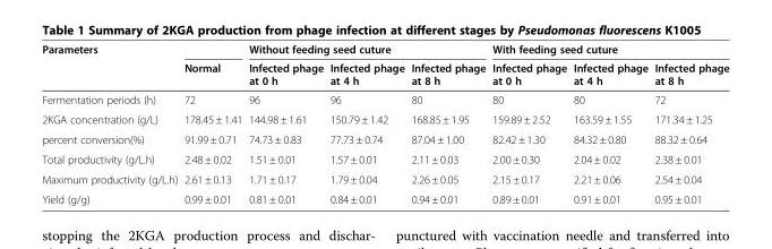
<table><thead><tr><td rowspan="2">Parameters</td><td rowspan="2">Normal</td><td colspan="3">Without feeding seed cuture</td><td colspan="3">With feeding seed cuture</td></tr><tr><td>Infected phage at 0 h</td><td>Infected phage at 4 h</td><td>Infected phage at 8 h</td><td>Infected phage at 0 h</td><td>Infected phage at 4 h</td><td>Infected phage at 8 h</td></tr></thead><tbody><tr><td>Fermentation periods (h)</td><td>72</td><td>96</td><td>96</td><td>80</td><td>80</td><td>80</td><td>72</td></tr><tr><td>2KGA concentration (g/L)</td><td>178.45 ± 1.41</td><td>144.98 ± 1.61</td><td>150.79 ± 1.42</td><td>168.85 ± 1.95</td><td>159.89 ± 2.52</td><td>163.59 ± 1.55</td><td>171.34 ± 1.25</td></tr><tr><td>percent conversion(%)</td><td>91.99 ± 0.71</td><td>74.73 ± 0.83</td><td>77.73 ± 0.74</td><td>87.04 ± 1.00</td><td>82.42 ± 1.30</td><td>84.32 ± 0.80</td><td>88.32 ± 0.64</td></tr><tr><td>Total productivity (g/L.h)</td><td>2.48 ± 0.02</td><td>1.51 ± 0.01</td><td>1.57 ± 0.01</td><td>2.11 ± 0.03</td><td>2.00 ± 0.30</td><td>2.04 ± 0.02</td><td>2.38 ± 0.01</td></tr><tr><td>Maximum productivity (g/L.h)</td><td>2.61 ± 0.13</td><td>1.71 ± 0.17</td><td>1.79 ± 0.04</td><td>2.26 ± 0.05</td><td>2.15 ± 0.17</td><td>2.21 ± 0.06</td><td>2.54 ± 0.04</td></tr><tr><td>Yield (g/g)</td><td>0.99 ± 0.01</td><td>0.81 ± 0.01</td><td>0.84 ± 0.01</td><td>0.94 ± 0.01</td><td>0.89 ± 0.01</td><td>0.91 ± 0.01</td><td>0.95 ± 0.01</td></tr></tbody></table>